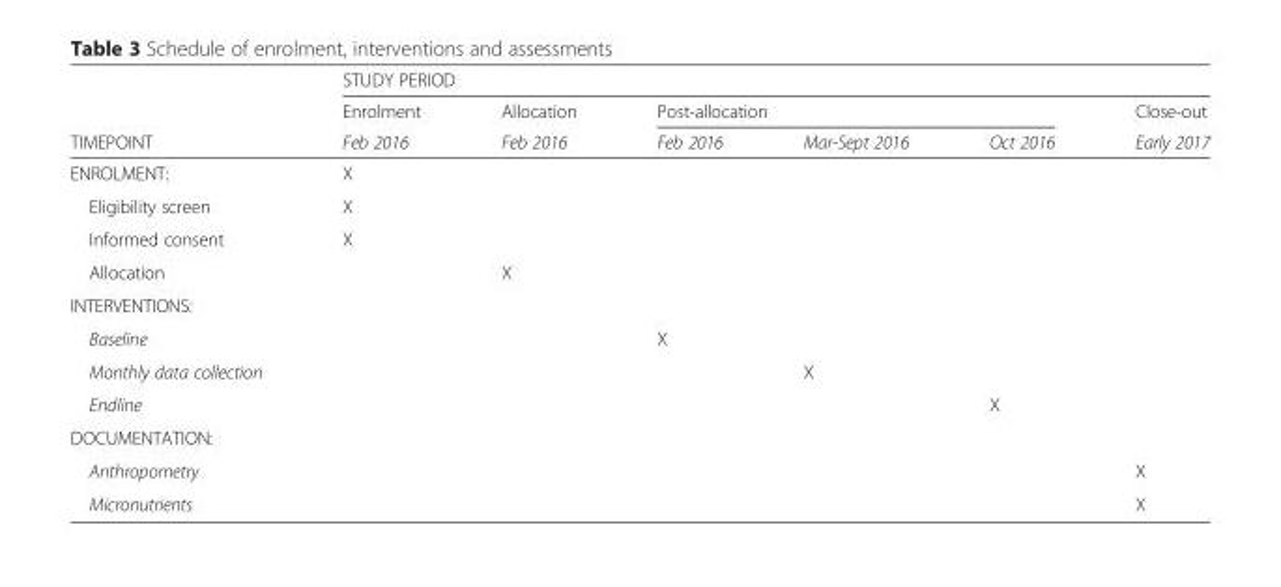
<table><thead><tr><td rowspan="3">TIMEPOINT</td><td colspan="6">STUDY PERIOD</td></tr><tr><td rowspan="2">Enrolment Feb 2016</td><td rowspan="2">Allocation Feb 2016</td><td colspan="3">Post-allocation</td><td rowspan="2">Close-out Early 2017</td></tr><tr><td>Feb 2016</td><td>Mar-Sept 2016</td><td>Oct 2016</td></tr></thead><tbody><tr><td>ENROLMENT:</td><td>X</td><td></td><td></td><td></td><td></td><td></td></tr><tr><td>Eligibility screen</td><td>X</td><td></td><td></td><td></td><td></td><td></td></tr><tr><td>Informed consent</td><td>X</td><td></td><td></td><td></td><td></td><td></td></tr><tr><td>Allocation</td><td></td><td>X</td><td></td><td></td><td></td><td></td></tr><tr><td colspan="7">INTERVENTIONS:</td></tr><tr><td>Baseline</td><td></td><td></td><td>X</td><td></td><td></td><td></td></tr><tr><td>Monthly data collection</td><td></td><td></td><td></td><td>X</td><td></td><td></td></tr><tr><td>Endline</td><td></td><td></td><td></td><td></td><td>X</td><td></td></tr><tr><td colspan="7">DOCUMENTATION:</td></tr><tr><td>Anthropometry</td><td></td><td></td><td></td><td></td><td></td><td>X</td></tr><tr><td>Micronutrients</td><td></td><td></td><td></td><td></td><td></td><td>X</td></tr></tbody></table>